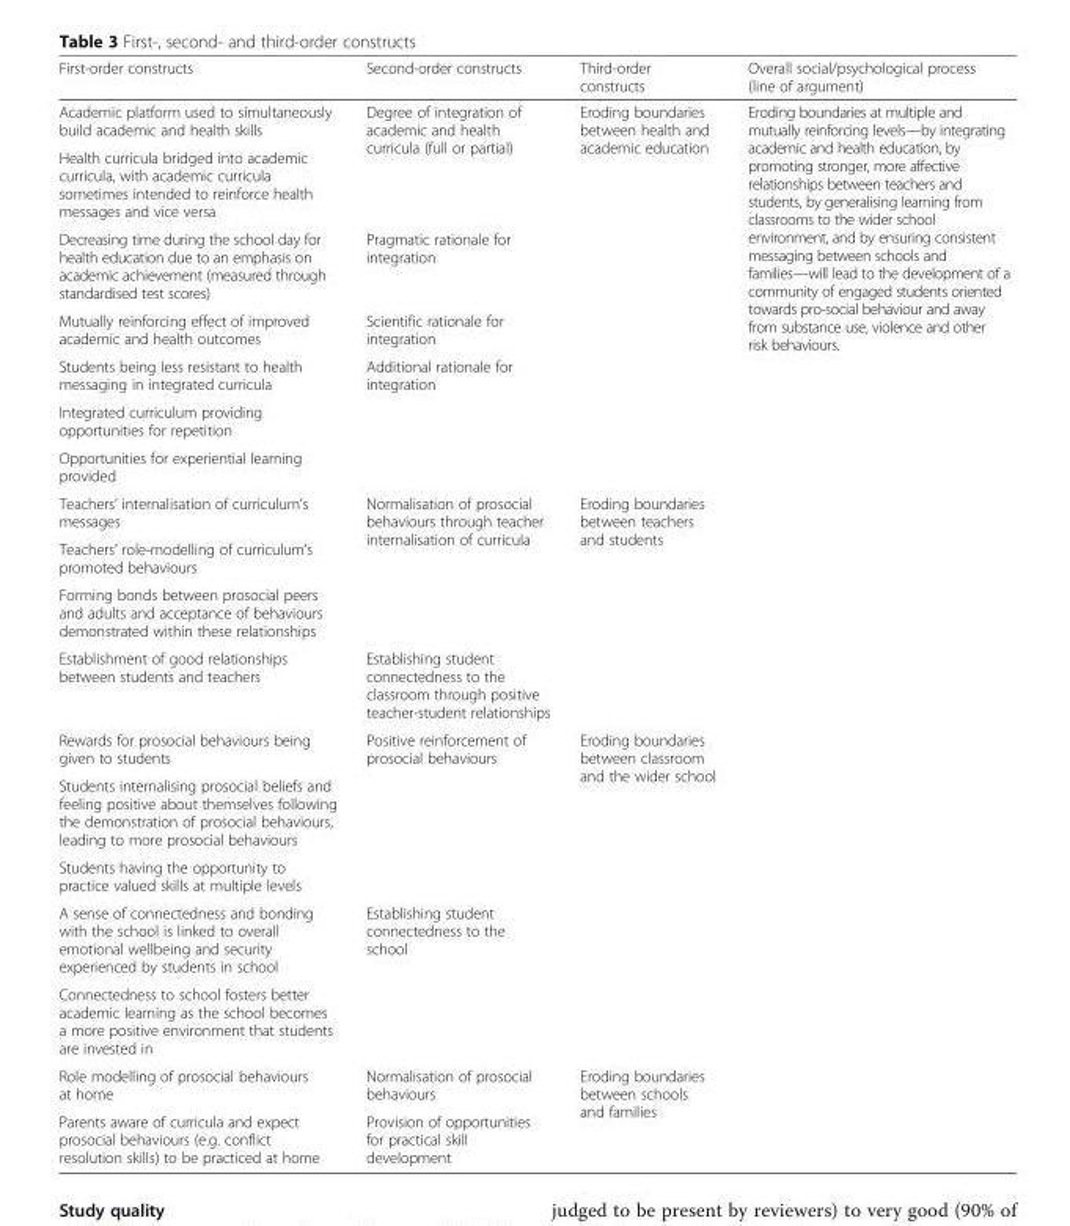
<table><thead><tr><td>First-order constructs</td><td>Second-order constructs</td><td>Third-order constructs</td><td>Overall social/psychological process (line of argument)</td></tr></thead><tbody><tr><td>Academic platform used to simultaneously build academic and health skills</td><td rowspan="2">Degree of integration of academic and health curricula (full or partial)</td><td rowspan="7">Eroding boundaries between health and academic education</td><td rowspan="18">Eroding boundaries at multiple and mutually reinforcing levels—by integrating academic and health education, by promoting stronger, more affective relationships between teachers and students, by generalising learning from classrooms to the wider school environment, and by ensuring consistent messaging between schools and families—will lead to the development of a community of engaged students oriented towards pro-social behaviour and away from substance use, violence and other risk behaviours.</td></tr><tr><td>Health curricula bridged into academic curricula, with academic curricula sometimes intended to reinforce health messages and vice versa</td></tr><tr><td>Decreasing time during the school day for health education due to an emphasis on academic achievement (measured through standardised test scores)</td><td>Pragmatic rationale for integration</td></tr><tr><td>Mutually reinforcing effect of improved academic and health outcomes</td><td>Scientific rationale for integration</td></tr><tr><td>Students being less resistant to health messaging in integrated curricula</td><td rowspan="3">Additional rationale for integration</td></tr><tr><td>Integrated curriculum providing opportunities for repetition</td></tr><tr><td>Opportunities for experiential learning provided</td></tr><tr><td>Teachers’ internalisation of curriculum’s messages</td><td rowspan="3">Normalisation of prosocial behaviours through teacher internalisation of curricula</td><td rowspan="4">Eroding boundaries between teachers and students</td></tr><tr><td>Teachers’ role-modelling of curriculum’s promoted behaviours</td></tr><tr><td>Forming bonds between prosocial peers and adults and acceptance of behaviours demonstrated within these relationships</td></tr><tr><td>Establishment of good relationships between students and teachers</td><td>Establishing student connectedness to the classroom through positive teacher-student relationships</td></tr><tr><td>Rewards for prosocial behaviours being given to students</td><td rowspan="3">Positive reinforcement of prosocial behaviours</td><td rowspan="5">Eroding boundaries between classroom and the wider school</td></tr><tr><td>Students internalising prosocial beliefs and feeling positive about themselves following the demonstration of prosocial behaviours, leading to more prosocial behaviours</td></tr><tr><td>Students having the opportunity to practice valued skills at multiple levels</td></tr><tr><td>A sense of connectedness and bonding with the school is linked to overall emotional wellbeing and security experienced by students in school</td><td rowspan="2">Establishing student connectedness to the school</td></tr><tr><td>Connectedness to school fosters better academic learning as the school becomes a more positive environment that students are invested in</td></tr><tr><td>Role modelling of prosocial behaviours at home</td><td>Normalisation of prosocial behaviours</td><td rowspan="2">Eroding boundaries between schools and families</td></tr><tr><td>Parents aware of curricula and expect prosocial behaviours (e.g. conflict resolution skills) to be practiced at home</td><td>Provision of opportunities for practical skill development</td></tr></tbody></table>